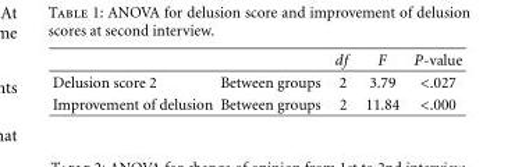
<table><thead><tr><td></td><td></td><td>df</td><td>F</td><td>P-value</td></tr></thead><tbody><tr><td>Delusion score 2</td><td>Between groups</td><td>2</td><td>3.79</td><td>&lt;.027</td></tr><tr><td>Improvement of delusion</td><td>Between groups</td><td>2</td><td>11.84</td><td>&lt;.000</td></tr></tbody></table>